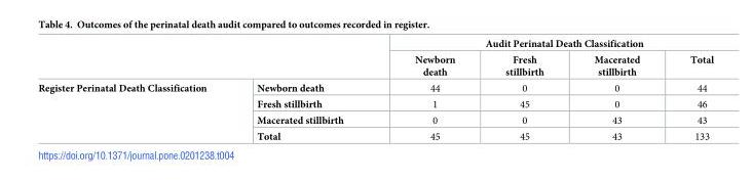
<table><thead><tr><td rowspan="2"></td><td rowspan="2"></td><td colspan="4">Audit Perinatal Death Classification</td></tr><tr><td>Newborn death</td><td>Fresh stillbirth</td><td>Macerated stillbirth</td><td>Total</td></tr></thead><tbody><tr><td rowspan="4">Register Perinatal Death Classification</td><td>Newborn death</td><td>44</td><td>0</td><td>0</td><td>44</td></tr><tr><td>Fresh stillbirth</td><td>1</td><td>45</td><td>0</td><td>46</td></tr><tr><td>Macerated stillbirth</td><td>0</td><td>0</td><td>43</td><td>43</td></tr><tr><td>Total</td><td>45</td><td>45</td><td>43</td><td>133</td></tr></tbody></table>